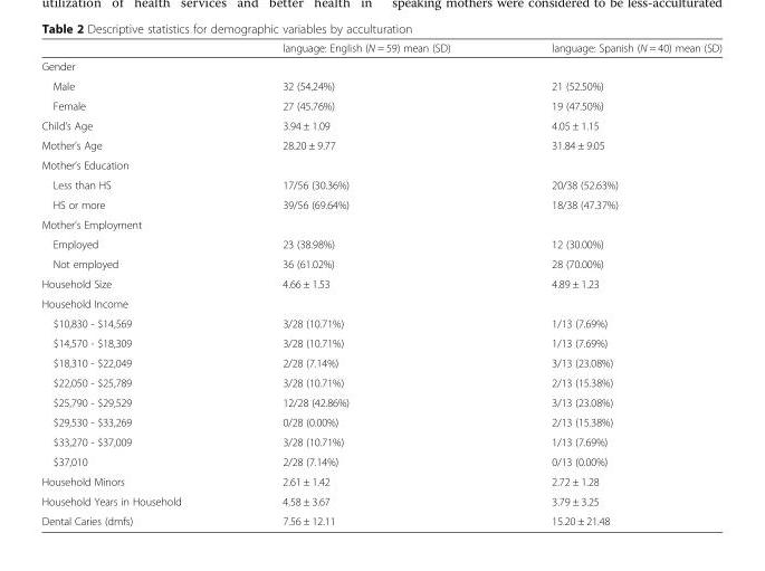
<table><thead><tr><td></td><td>language: English (N = 59) mean (SD)</td><td>language: Spanish (N = 40) mean (SD)</td></tr></thead><tbody><tr><td colspan="3">Gender</td></tr><tr><td>Male</td><td>32 (54.24%)</td><td>21 (52.50%)</td></tr><tr><td>Female</td><td>27 (45.76%)</td><td>19 (47.50%)</td></tr><tr><td>Child’s Age</td><td>3.94 ± 1.09</td><td>4.05 ± 1.15</td></tr><tr><td>Mother’s Age</td><td>28.20 ± 9.77</td><td>31.84 ± 9.05</td></tr><tr><td colspan="3">Mother’s Education</td></tr><tr><td>Less than HS</td><td>17/56 (30.36%)</td><td>20/38 (52.63%)</td></tr><tr><td>HS or more</td><td>39/56 (69.64%)</td><td>18/38 (47.37%)</td></tr><tr><td colspan="3">Mother’s Employment</td></tr><tr><td>Employed</td><td>23 (38.98%)</td><td>12 (30.00%)</td></tr><tr><td>Not employed</td><td>36 (61.02%)</td><td>28 (70.00%)</td></tr><tr><td>Household Size</td><td>4.66 ± 1.53</td><td>4.89 ± 1.23</td></tr><tr><td colspan="3">Household Income</td></tr><tr><td>$10,830 - $14,569</td><td>3/28 (10.71%)</td><td>1/13 (7.69%)</td></tr><tr><td>$14,570 - $18,309</td><td>3/28 (10.71%)</td><td>1/13 (7.69%)</td></tr><tr><td>$18,310 - $22,049</td><td>2/28 (7.14%)</td><td>3/13 (23.08%)</td></tr><tr><td>$22,050 - $25,789</td><td>3/28 (10.71%)</td><td>2/13 (15.38%)</td></tr><tr><td>$25,790 - $29,529</td><td>12/28 (42.86%)</td><td>3/13 (23.08%)</td></tr><tr><td>$29,530 - $33,269</td><td>0/28 (0.00%)</td><td>2/13 (15.38%)</td></tr><tr><td>$33,270 - $37,009</td><td>3/28 (10.71%)</td><td>1/13 (7.69%)</td></tr><tr><td>$37,010</td><td>2/28 (7.14%)</td><td>0/13 (0.00%)</td></tr><tr><td>Household Minors</td><td>2.61 ± 1.42</td><td>2.72 ± 1.28</td></tr><tr><td>Household Years in Household</td><td>4.58 ± 3.67</td><td>3.79 ± 3.25</td></tr><tr><td>Dental Caries (dmfs)</td><td>7.56 ± 12.11</td><td>15.20 ± 21.48</td></tr></tbody></table>